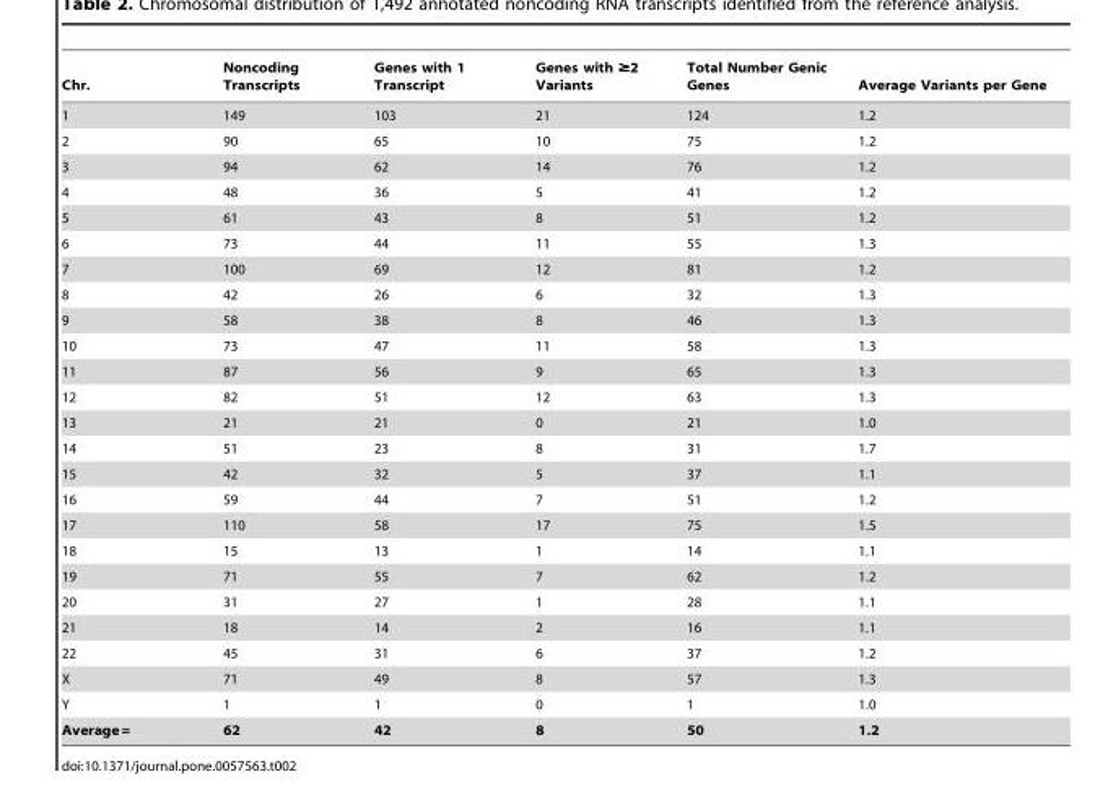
<table><thead><tr><td>Chr.</td><td>Noncoding Transcripts</td><td>Genes with 1 Transcript</td><td>Genes with ≥2 Variants</td><td>Total Number Genic Genes</td><td>Average Variants per Gene</td></tr></thead><tbody><tr><td>1</td><td>149</td><td>103</td><td>21</td><td>124</td><td>1.2</td></tr><tr><td>2</td><td>90</td><td>65</td><td>10</td><td>75</td><td>1.2</td></tr><tr><td>3</td><td>94</td><td>62</td><td>14</td><td>76</td><td>1.2</td></tr><tr><td>4</td><td>48</td><td>36</td><td>5</td><td>41</td><td>1.2</td></tr><tr><td>5</td><td>61</td><td>43</td><td>8</td><td>51</td><td>1.2</td></tr><tr><td>6</td><td>73</td><td>44</td><td>11</td><td>55</td><td>1.3</td></tr><tr><td>7</td><td>100</td><td>69</td><td>12</td><td>81</td><td>1.2</td></tr><tr><td>8</td><td>42</td><td>26</td><td>6</td><td>32</td><td>1.3</td></tr><tr><td>9</td><td>58</td><td>38</td><td>8</td><td>46</td><td>1.3</td></tr><tr><td>10</td><td>73</td><td>47</td><td>11</td><td>58</td><td>1.3</td></tr><tr><td>11</td><td>87</td><td>56</td><td>9</td><td>65</td><td>1.3</td></tr><tr><td>12</td><td>82</td><td>51</td><td>12</td><td>63</td><td>1.3</td></tr><tr><td>13</td><td>21</td><td>21</td><td>0</td><td>21</td><td>1.0</td></tr><tr><td>14</td><td>51</td><td>23</td><td>8</td><td>31</td><td>1.7</td></tr><tr><td>15</td><td>42</td><td>32</td><td>5</td><td>37</td><td>1.1</td></tr><tr><td>16</td><td>59</td><td>44</td><td>7</td><td>51</td><td>1.2</td></tr><tr><td>17</td><td>110</td><td>58</td><td>17</td><td>75</td><td>1.5</td></tr><tr><td>18</td><td>15</td><td>13</td><td>1</td><td>14</td><td>1.1</td></tr><tr><td>19</td><td>71</td><td>55</td><td>7</td><td>62</td><td>1.2</td></tr><tr><td>20</td><td>31</td><td>27</td><td>1</td><td>28</td><td>1.1</td></tr><tr><td>21</td><td>18</td><td>14</td><td>2</td><td>16</td><td>1.1</td></tr><tr><td>22</td><td>45</td><td>31</td><td>6</td><td>37</td><td>1.2</td></tr><tr><td>X</td><td>71</td><td>49</td><td>8</td><td>57</td><td>1.3</td></tr><tr><td>Y</td><td>1</td><td>1</td><td>0</td><td>1</td><td>1.0</td></tr><tr><td>Average =</td><td>62</td><td>42</td><td>8</td><td>50</td><td>1.2</td></tr></tbody></table>